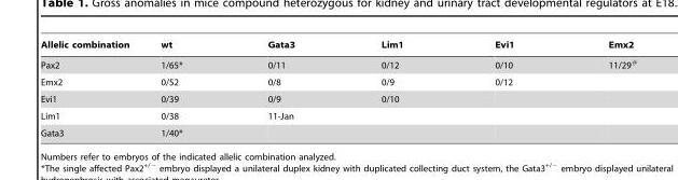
<table><thead><tr><td>Allelic combination</td><td>wt</td><td>Gata3</td><td>Lim1</td><td>Evi1</td><td>Emx2</td></tr></thead><tbody><tr><td>Pax2</td><td>1/65*</td><td>0/11</td><td>0/12</td><td>0/10</td><td>11/29#</td></tr><tr><td>Emx2</td><td>0/52</td><td>0/8</td><td>0/9</td><td>0/12</td><td></td></tr><tr><td>Evi1</td><td>0/39</td><td>0/9</td><td>0/10</td><td></td><td></td></tr><tr><td>Lim1</td><td>0/38</td><td>11-Jan</td><td></td><td></td><td></td></tr><tr><td>Gata3</td><td>1/40*</td><td></td><td></td><td></td><td></td></tr></tbody></table>